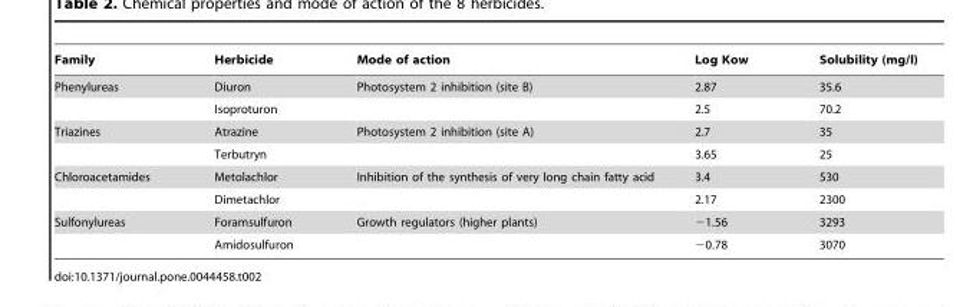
<table><thead><tr><td>Family</td><td>Herbicide</td><td>Mode of action</td><td>Log Kow</td><td>Solubility (mg/l)</td></tr></thead><tbody><tr><td rowspan="2">Phenylureas</td><td>Diuron</td><td>Photosystem 2 inhibition (site B)</td><td>2.87</td><td>35.6</td></tr><tr><td>Isoproturon</td><td></td><td>2.5</td><td>70.2</td></tr><tr><td rowspan="2">Triazines</td><td>Atrazine</td><td>Photosystem 2 inhibition (site A)</td><td>2.7</td><td>35</td></tr><tr><td>Terbutryn</td><td></td><td>3.65</td><td>25</td></tr><tr><td rowspan="2">Chloroacetamides</td><td>Metolachlor</td><td>Inhibition of the synthesis of very long chain fatty acid</td><td>3.4</td><td>530</td></tr><tr><td>Dimetachlor</td><td></td><td>2.17</td><td>2300</td></tr><tr><td rowspan="2">Sulfonylureas</td><td>Foramsulfuron</td><td>Growth regulators (higher plants)</td><td>−1.56</td><td>3293</td></tr><tr><td>Amidosulfuron</td><td></td><td>−0.78</td><td>3070</td></tr></tbody></table>